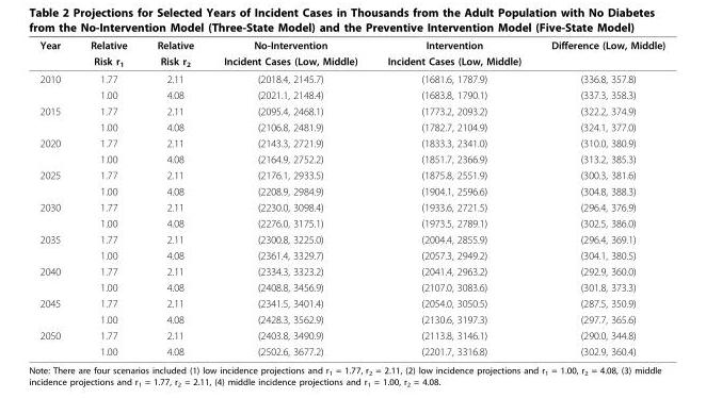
<table><thead><tr><td rowspan="2">Year</td><td rowspan="2">Relative Risk r<sub>1</sub></td><td rowspan="2">Relative Risk r<sub>2</sub></td><td rowspan="2">No-Intervention Incident Cases (Low, Middle)</td><td rowspan="2">Intervention Incident Cases (Low, Middle)</td><td rowspan="2">Difference (Low, Middle)</td></tr><tr></tr></thead><tbody><tr><td rowspan="2">2010</td><td>1.77</td><td>2.11</td><td>(2018.4, 2145.7)</td><td>(1681.6, 1787.9)</td><td>(336.8, 357.8)</td></tr><tr><td>1.00</td><td>4.08</td><td>(2021.1, 2148.4)</td><td>(1683.8, 1790.1)</td><td>(337.3, 358.3)</td></tr><tr><td rowspan="2">2015</td><td>1.77</td><td>2.11</td><td>(2095.4, 2468.1)</td><td>(1773.2, 2093.2)</td><td>(322.2, 374.9)</td></tr><tr><td>1.00</td><td>4.08</td><td>(2106.8, 2481.9)</td><td>(1782.7, 2104.9)</td><td>(324.1, 377.0)</td></tr><tr><td rowspan="2">2020</td><td>1.77</td><td>2.11</td><td>(2143.3, 2721.9)</td><td>(1833.3, 2341.0)</td><td>(310.0, 380.9)</td></tr><tr><td>1.00</td><td>4.08</td><td>(2164.9, 2752.2)</td><td>(1851.7, 2366.9)</td><td>(313.2, 385.3)</td></tr><tr><td rowspan="2">2025</td><td>1.77</td><td>2.11</td><td>(2176.1, 2933.5)</td><td>(1875.8, 2551.9)</td><td>(300.3, 381.6)</td></tr><tr><td>1.00</td><td>4.08</td><td>(2208.9, 2984.9)</td><td>(1904.1, 2596.6)</td><td>(304.8, 388.3)</td></tr><tr><td rowspan="2">2030</td><td>1.77</td><td>2.11</td><td>(2230.0, 3098.4)</td><td>(1933.6, 2721.5)</td><td>(296.4, 376.9)</td></tr><tr><td>1.00</td><td>4.08</td><td>(2276.0, 3175.1)</td><td>(1973.5, 2789.1)</td><td>(302.5, 386.0)</td></tr><tr><td rowspan="2">2035</td><td>1.77</td><td>2.11</td><td>(2300.8, 3225.0)</td><td>(2004.4, 2855.9)</td><td>(296.4, 369.1)</td></tr><tr><td>1.00</td><td>4.08</td><td>(2361.4, 3329.7)</td><td>(2057.3, 2949.2)</td><td>(304.1, 380.5)</td></tr><tr><td rowspan="2">2040</td><td>1.77</td><td>2.11</td><td>(2334.3, 3323.2)</td><td>(2041.4, 2963.2)</td><td>(292.9, 360.0)</td></tr><tr><td>1.00</td><td>4.08</td><td>(2408.8, 3456.9)</td><td>(2107.0, 3083.6)</td><td>(301.8, 373.3)</td></tr><tr><td rowspan="2">2045</td><td>1.77</td><td>2.11</td><td>(2341.5, 3401.4)</td><td>(2054.0, 3050.5)</td><td>(287.5, 350.9)</td></tr><tr><td>1.00</td><td>4.08</td><td>(2428.3, 3562.9)</td><td>(2130.6, 3197.3)</td><td>(297.7, 365.6)</td></tr><tr><td rowspan="2">2050</td><td>1.77</td><td>2.11</td><td>(2403.8, 3490.9)</td><td>(2113.8, 3146.1)</td><td>(290.0, 344.8)</td></tr><tr><td>1.00</td><td>4.08</td><td>(2502.6, 3677.2)</td><td>(2201.7, 3316.8)</td><td>(302.9, 360.4)</td></tr></tbody></table>